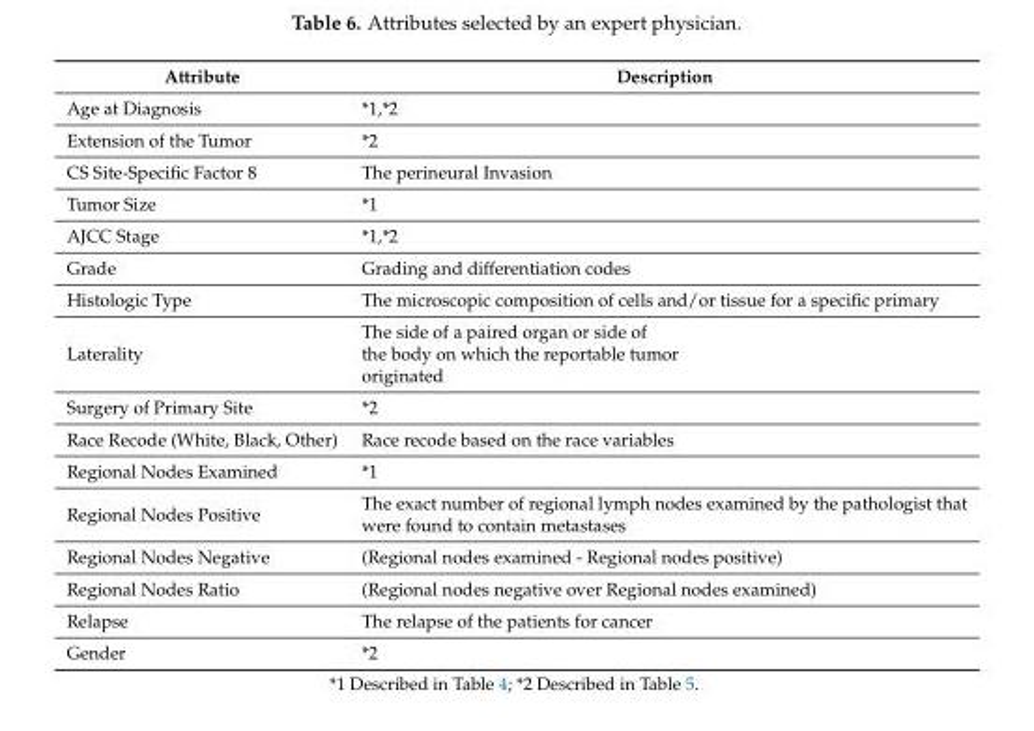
<table><thead><tr><td>Attribute</td><td>Description</td></tr></thead><tbody><tr><td>Age at Diagnosis</td><td>*1,*2</td></tr><tr><td>Extension of the Tumor</td><td>*2</td></tr><tr><td>CS Site-Specific Factor 8</td><td>The perineural Invasion</td></tr><tr><td>Tumor Size</td><td>*1</td></tr><tr><td>AJCC Stage</td><td>*1,*2</td></tr><tr><td>Grade</td><td>Grading and differentiation codes</td></tr><tr><td>Histologic Type</td><td>The microscopic composition of cells and/or tissue for a specific primary</td></tr><tr><td>Laterality</td><td>The side of a paired organ or side of the body on which the reportable tumor originated</td></tr><tr><td>Surgery of Primary Site</td><td>*2</td></tr><tr><td>Race Recode (White, Black, Other)</td><td>Race recode based on the race variables</td></tr><tr><td>Regional Nodes Examined</td><td>*1</td></tr><tr><td>Regional Nodes Positive</td><td>The exact number of regional lymph nodes examined by the pathologist that were found to contain metastases</td></tr><tr><td>Regional Nodes Negative</td><td>(Regional nodes examined - Regional nodes positive)</td></tr><tr><td>Regional Nodes Ratio</td><td>(Regional nodes negative over Regional nodes examined)</td></tr><tr><td>Relapse</td><td>The relapse of the patients for cancer</td></tr><tr><td>Gender</td><td>*2</td></tr></tbody></table>